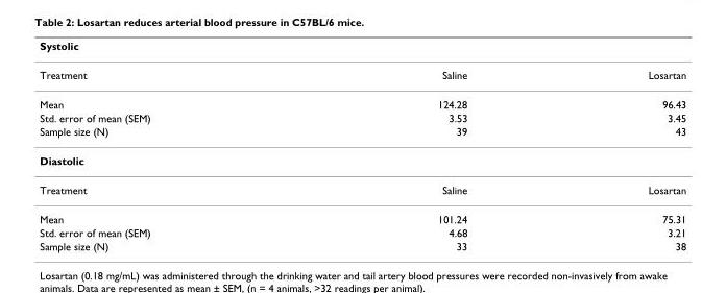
<table><thead><tr><td>Systolic</td><td></td><td></td></tr></thead><tbody><tr><td>Treatment</td><td>Saline</td><td>Losartan</td></tr><tr><td>Mean</td><td>124.28</td><td>96.43</td></tr><tr><td>Std. error of mean (SEM)</td><td>3.53</td><td>3.45</td></tr><tr><td>Sample size (N)</td><td>39</td><td>43</td></tr><tr><td colspan="3">Diastolic</td></tr><tr><td>Treatment</td><td>Saline</td><td>Losartan</td></tr><tr><td>Mean</td><td>101.24</td><td>75.31</td></tr><tr><td>Std. error of mean (SEM)</td><td>4.68</td><td>3.21</td></tr><tr><td>Sample size (N)</td><td>33</td><td>38</td></tr></tbody></table>